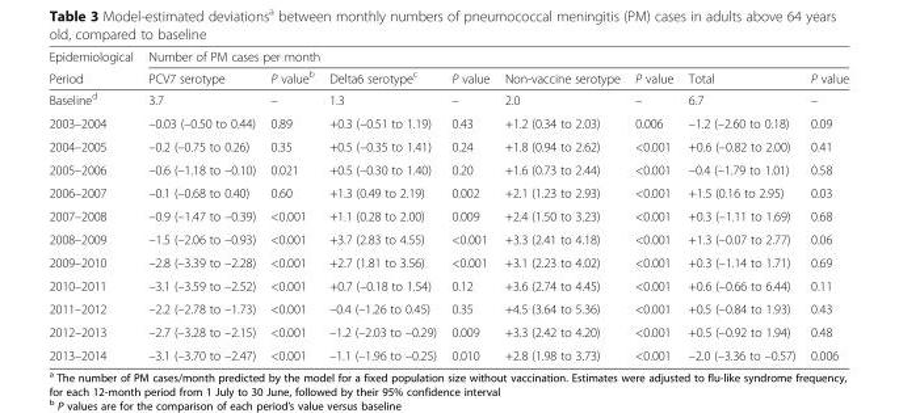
<table><thead><tr><td rowspan="2">Epidemiological Period</td><td colspan="8">Number of PM cases per month</td></tr><tr><td>PCV7 serotype</td><td>P value<sup>b</sup></td><td>Delta6 serotype<sup>c</sup></td><td>P value</td><td>Non-vaccine serotype</td><td>P value</td><td>Total</td><td>P value</td></tr></thead><tbody><tr><td>Baseline<sup>d</sup></td><td>3.7</td><td>–</td><td>1.3</td><td>–</td><td>2.0</td><td>–</td><td>6.7</td><td>–</td></tr><tr><td>2003–2004</td><td>–0.03 (–0.50 to 0.44)</td><td>0.89</td><td>+0.3 (–0.51 to 1.19)</td><td>0.43</td><td>+1.2 (0.34 to 2.03)</td><td>0.006</td><td>–1.2 (–2.60 to 0.18)</td><td>0.09</td></tr><tr><td>2004–2005</td><td>–0.2 (–0.75 to 0.26)</td><td>0.35</td><td>+0.5 (–0.35 to 1.41)</td><td>0.24</td><td>+1.8 (0.94 to 2.62)</td><td>&lt;0.001</td><td>+0.6 (–0.82 to 2.00)</td><td>0.41</td></tr><tr><td>2005–2006</td><td>–0.6 (–1.18 to –0.10)</td><td>0.021</td><td>+0.5 (–0.30 to 1.40)</td><td>0.20</td><td>+1.6 (0.73 to 2.44)</td><td>&lt;0.001</td><td>–0.4 (–1.79 to 1.01)</td><td>0.58</td></tr><tr><td>2006–2007</td><td>–0.1 (–0.68 to 0.40)</td><td>0.60</td><td>+1.3 (0.49 to 2.19)</td><td>0.002</td><td>+2.1 (1.23 to 2.93)</td><td>&lt;0.001</td><td>+1.5 (0.16 to 2.95)</td><td>0.03</td></tr><tr><td>2007–2008</td><td>–0.9 (–1.47 to –0.39)</td><td>&lt;0.001</td><td>+1.1 (0.28 to 2.00)</td><td>0.009</td><td>+2.4 (1.50 to 3.23)</td><td>&lt;0.001</td><td>+0.3 (–1.11 to 1.69)</td><td>0.68</td></tr><tr><td>2008–2009</td><td>–1.5 (–2.06 to –0.93)</td><td>&lt;0.001</td><td>+3.7 (2.83 to 4.55)</td><td>&lt;0.001</td><td>+3.3 (2.41 to 4.18)</td><td>&lt;0.001</td><td>+1.3 (–0.07 to 2.77)</td><td>0.06</td></tr><tr><td>2009–2010</td><td>–2.8 (–3.39 to –2.28)</td><td>&lt;0.001</td><td>+2.7 (1.81 to 3.56)</td><td>&lt;0.001</td><td>+3.1 (2.23 to 4.02)</td><td>&lt;0.001</td><td>+0.3 (–1.14 to 1.71)</td><td>0.69</td></tr><tr><td>2010–2011</td><td>–3.1 (–3.59 to –2.52)</td><td>&lt;0.001</td><td>+0.7 (–0.18 to 1.54)</td><td>0.12</td><td>+3.6 (2.74 to 4.45)</td><td>&lt;0.001</td><td>+0.6 (–0.66 to 6.44)</td><td>0.11</td></tr><tr><td>2011–2012</td><td>–2.2 (–2.78 to –1.73)</td><td>&lt;0.001</td><td>–0.4 (–1.26 to 0.45)</td><td>0.35</td><td>+4.5 (3.64 to 5.36)</td><td>&lt;0.001</td><td>+0.5 (–0.84 to 1.93)</td><td>0.43</td></tr><tr><td>2012–2013</td><td>–2.7 (–3.28 to –2.15)</td><td>&lt;0.001</td><td>–1.2 (–2.03 to –0.29)</td><td>0.009</td><td>+3.3 (2.42 to 4.20)</td><td>&lt;0.001</td><td>+0.5 (–0.92 to 1.94)</td><td>0.48</td></tr><tr><td>2013–2014</td><td>–3.1 (–3.70 to –2.47)</td><td>&lt;0.001</td><td>–1.1 (–1.96 to –0.25)</td><td>0.010</td><td>+2.8 (1.98 to 3.73)</td><td>&lt;0.001</td><td>–2.0 (–3.36 to –0.57)</td><td>0.006</td></tr></tbody></table>